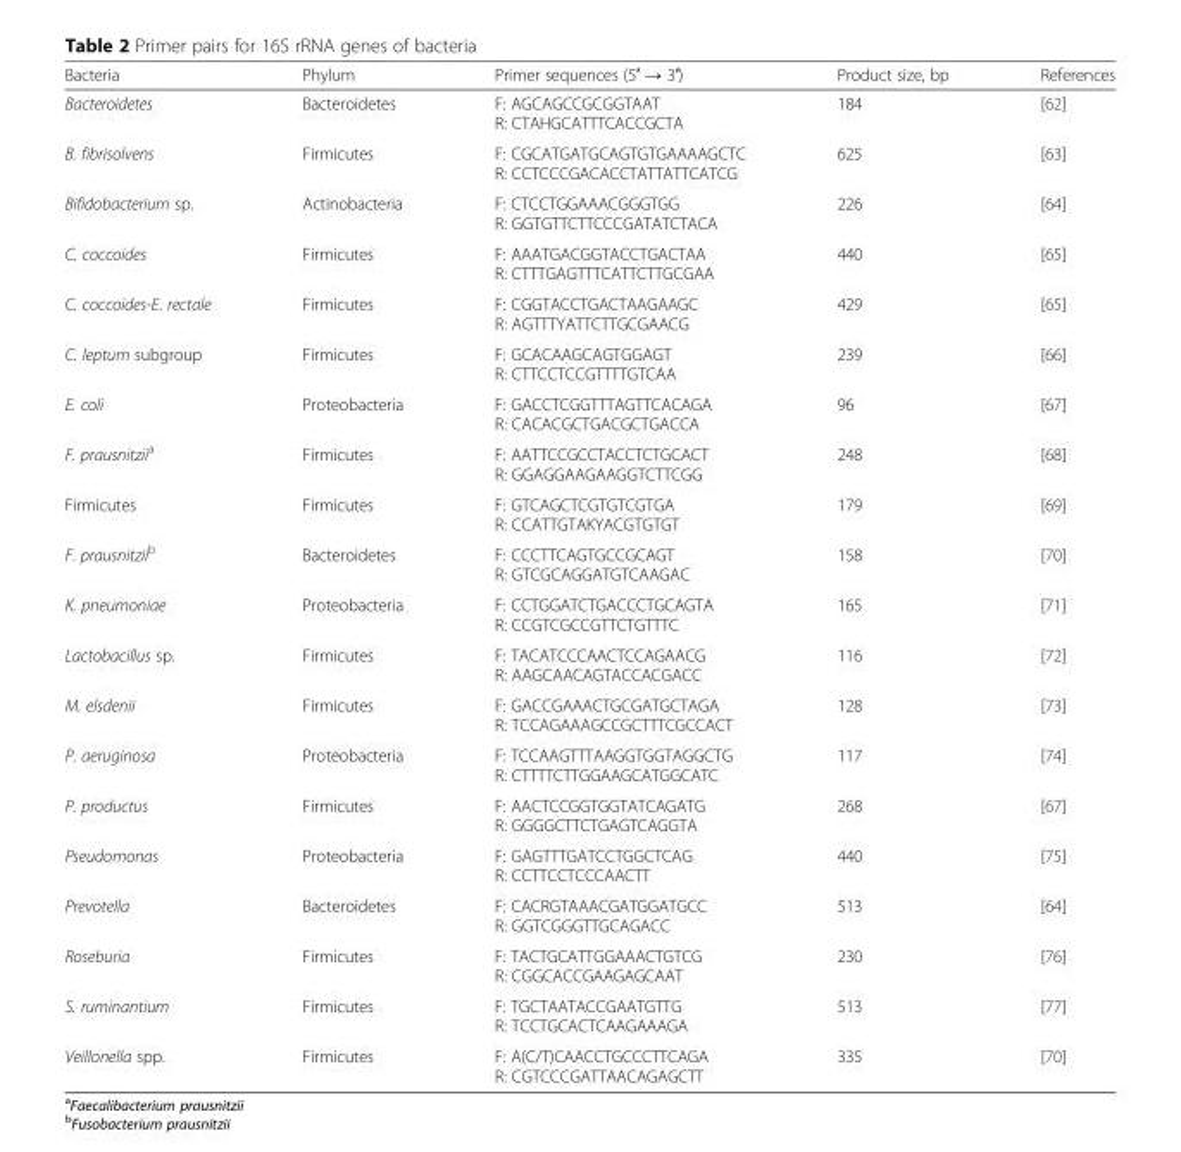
<table><thead><tr><td>Bacteria</td><td>Phylum</td><td>Primer sequences (5′ → 3′)</td><td>Product size, bp</td><td>References</td></tr></thead><tbody><tr><td>Bacteroidetes</td><td>Bacteroidetes</td><td>F: AGCAGCCGCGGTAAT R: CTAHGCATTTCACCGCTA</td><td>184</td><td>[62]</td></tr><tr><td>B. fibrisolvens</td><td>Firmicutes</td><td>F: CGCATGATGCAGTGTGAAAAGCTC R: CCTCCCGACACCTATTATTCATCG</td><td>625</td><td>[63]</td></tr><tr><td>Bifidobacterium sp.</td><td>Actinobacteria</td><td>F: CTCCTGGAAACGGGTGG R: GGTGTTCTTCCCGATATCTACA</td><td>226</td><td>[64]</td></tr><tr><td>C. coccoides</td><td>Firmicutes</td><td>F: AAATGACGGTACCTGACTAA R: CTTTGAGTTTCATTCTTGCGAA</td><td>440</td><td>[65]</td></tr><tr><td>C. coccoides-E. rectale</td><td>Firmicutes</td><td>F: CGGTACCTGACTAAGAAGC R: AGTTTYATTCTTGCGAACG</td><td>429</td><td>[65]</td></tr><tr><td>C. leptum subgroup</td><td>Firmicutes</td><td>F: GCACAAGCAGTGGAGT R: CTTCCTCCGTTTTGTCAA</td><td>239</td><td>[66]</td></tr><tr><td>E. coli</td><td>Proteobacteria</td><td>F: GACCTCGGTTTAGTTCACAGA R: CACACGCTGACGCTGACCA</td><td>96</td><td>[67]</td></tr><tr><td>F. prausnitzii<sup>a</sup></td><td>Firmicutes</td><td>F: AATTCCGCCTACCTCTGCACT R: GGAGGAAGAAGGTCTTCGG</td><td>248</td><td>[68]</td></tr><tr><td>Firmicutes</td><td>Firmicutes</td><td>F: GTCAGCTCGTGTCGTGA R: CCATTGTAKYACGTGTGT</td><td>179</td><td>[69]</td></tr><tr><td>F. prausnitzii<sup>b</sup></td><td>Bacteroidetes</td><td>F: CCCTTCAGTGCCGCAGT R: GTCGCAGGATGTCAAGAC</td><td>158</td><td>[70]</td></tr><tr><td>K. pneumoniae</td><td>Proteobacteria</td><td>F: CCTGGATCTGACCCTGCAGTA R: CCGTCGCCGTTCTGTTTC</td><td>165</td><td>[71]</td></tr><tr><td>Lactobacillus sp.</td><td>Firmicutes</td><td>F: TACATCCCAACTCCAGAACG R: AAGCAACAGTACCACGACC</td><td>116</td><td>[72]</td></tr><tr><td>M. elsdenii</td><td>Firmicutes</td><td>F: GACCGAAACTGCGATGCTAGA R: TCCAGAAAGCCGCTTTCGCCACT</td><td>128</td><td>[73]</td></tr><tr><td>P. aeruginosa</td><td>Proteobacteria</td><td>F: TCCAAGTTTAAGGTGGTAGGCTG R: CTTTTCTTGGAAGCATGGCATC</td><td>117</td><td>[74]</td></tr><tr><td>P. productus</td><td>Firmicutes</td><td>F: AACTCCGGTGGTATCAGATG R: GGGGCTTCTGAGTCAGGTA</td><td>268</td><td>[67]</td></tr><tr><td>Pseudomonas</td><td>Proteobacteria</td><td>F: GAGTTTGATCCTGGCTCAG R: CCTTCCTCCCAACTT</td><td>440</td><td>[75]</td></tr><tr><td>Prevotella</td><td>Bacteroidetes</td><td>F: CACRGTAAACGATGGATGCC R: GGTCGGGTTGCAGACC</td><td>513</td><td>[64]</td></tr><tr><td>Roseburia</td><td>Firmicutes</td><td>F: TACTGCATTGGAAACTGTCG R: CGGCACCGAAGAGCAAT</td><td>230</td><td>[76]</td></tr><tr><td>S. ruminantium</td><td>Firmicutes</td><td>F: TGCTAATACCGAATGTTG R: TCCTGCACTCAAGAAAGA</td><td>513</td><td>[77]</td></tr><tr><td>Veillonella spp.</td><td>Firmicutes</td><td>F: A(C/T)CAACCTGCCCTTCAGA R: CGTCCCGATTAACAGAGCTT</td><td>335</td><td>[70]</td></tr></tbody></table>